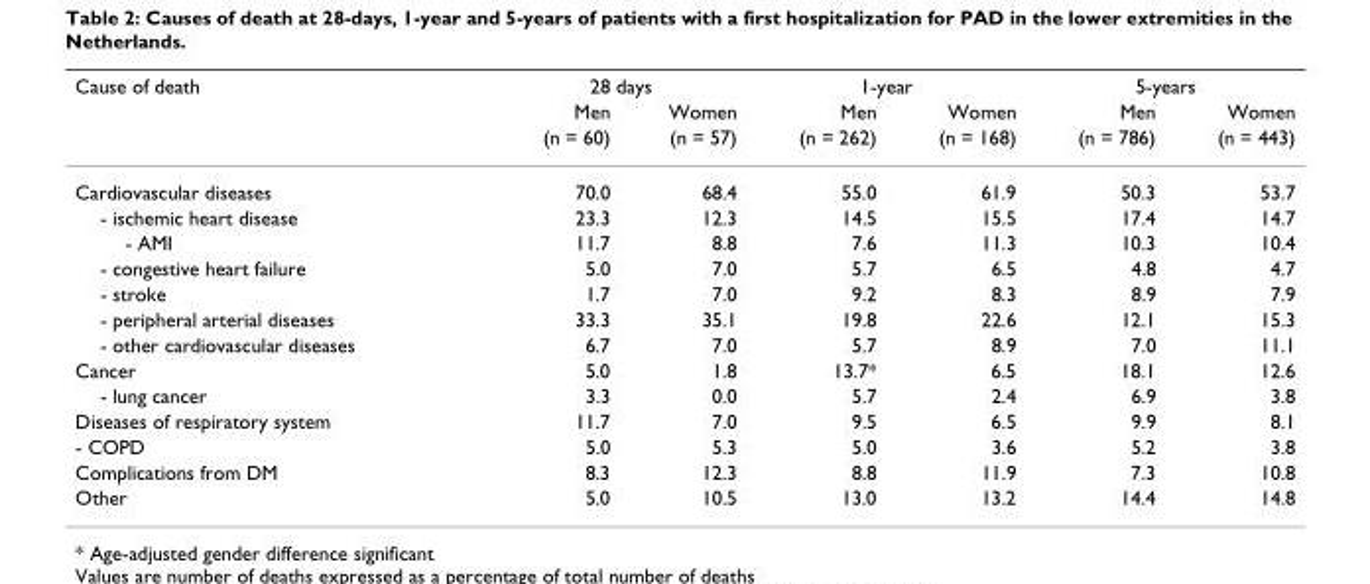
<table><thead><tr><td rowspan="3">Cause of death</td><td colspan="2">28 days</td><td colspan="2">1-year</td><td colspan="2">5-years</td></tr><tr><td rowspan="2">Men (n = 60)</td><td rowspan="2">Women (n = 57)</td><td rowspan="2">Men (n = 262)</td><td rowspan="2">Women (n = 168)</td><td rowspan="2">Men (n = 786)</td><td rowspan="2">Women (n = 443)</td></tr><tr></tr></thead><tbody><tr><td>Cardiovascular diseases</td><td>70.0</td><td>68.4</td><td>55.0</td><td>61.9</td><td>50.3</td><td>53.7</td></tr><tr><td>- ischemic heart disease</td><td>23.3</td><td>12.3</td><td>14.5</td><td>15.5</td><td>17.4</td><td>14.7</td></tr><tr><td>- AMI</td><td>11.7</td><td>8.8</td><td>7.6</td><td>11.3</td><td>10.3</td><td>10.4</td></tr><tr><td>- congestive heart failure</td><td>5.0</td><td>7.0</td><td>5.7</td><td>6.5</td><td>4.8</td><td>4.7</td></tr><tr><td>- stroke</td><td>1.7</td><td>7.0</td><td>9.2</td><td>8.3</td><td>8.9</td><td>7.9</td></tr><tr><td>- peripheral arterial diseases</td><td>33.3</td><td>35.1</td><td>19.8</td><td>22.6</td><td>12.1</td><td>15.3</td></tr><tr><td>- other cardiovascular diseases</td><td>6.7</td><td>7.0</td><td>5.7</td><td>8.9</td><td>7.0</td><td>11.1</td></tr><tr><td>Cancer</td><td>5.0</td><td>1.8</td><td>13.7*</td><td>6.5</td><td>18.1</td><td>12.6</td></tr><tr><td>- lung cancer</td><td>3.3</td><td>0.0</td><td>5.7</td><td>2.4</td><td>6.9</td><td>3.8</td></tr><tr><td>Diseases of respiratory system</td><td>11.7</td><td>7.0</td><td>9.5</td><td>6.5</td><td>9.9</td><td>8.1</td></tr><tr><td>- COPD</td><td>5.0</td><td>5.3</td><td>5.0</td><td>3.6</td><td>5.2</td><td>3.8</td></tr><tr><td>Complications from DM</td><td>8.3</td><td>12.3</td><td>8.8</td><td>11.9</td><td>7.3</td><td>10.8</td></tr><tr><td>Other</td><td>5.0</td><td>10.5</td><td>13.0</td><td>13.2</td><td>14.4</td><td>14.8</td></tr></tbody></table>